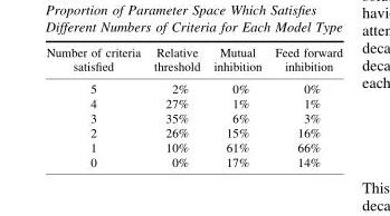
<table><thead><tr><td>Number of criteria satisfied</td><td>Relative threshold</td><td>Mutual inhibition</td><td>Feed forward inhibition</td></tr></thead><tbody><tr><td>5</td><td>2%</td><td>0%</td><td>0%</td></tr><tr><td>4</td><td>27%</td><td>1%</td><td>1%</td></tr><tr><td>3</td><td>35%</td><td>6%</td><td>3%</td></tr><tr><td>2</td><td>26%</td><td>15%</td><td>16%</td></tr><tr><td>1</td><td>10%</td><td>61%</td><td>66%</td></tr><tr><td>0</td><td>0%</td><td>17%</td><td>14%</td></tr></tbody></table>